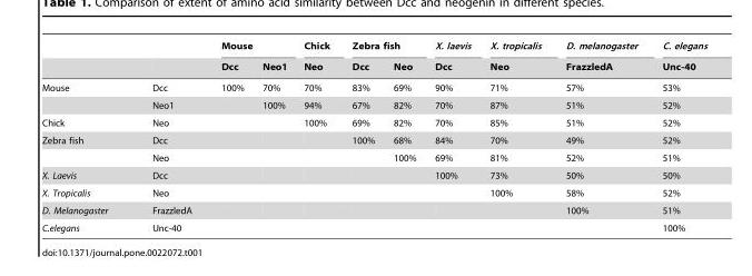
<table><thead><tr><td rowspan="2"></td><td rowspan="2"></td><td colspan="2">Mouse</td><td rowspan="2">Chick Neo</td><td colspan="2">Zebra fish</td><td rowspan="2">X. laevis Dcc</td><td rowspan="2">X. tropicalis Neo</td><td rowspan="2">D. melanogaster FrazzledA</td><td rowspan="2">C. elegans Unc-40</td></tr><tr><td>Dcc</td><td>Neo1</td><td>Dcc</td><td>Neo</td></tr></thead><tbody><tr><td rowspan="2">Mouse</td><td>Dcc</td><td>100%</td><td>70%</td><td>70%</td><td>83%</td><td>69%</td><td>90%</td><td>71%</td><td>57%</td><td>53%</td></tr><tr><td>Neo1</td><td></td><td>100%</td><td>94%</td><td>67%</td><td>82%</td><td>70%</td><td>87%</td><td>51%</td><td>52%</td></tr><tr><td>Chick</td><td>Neo</td><td></td><td></td><td>100%</td><td>69%</td><td>82%</td><td>70%</td><td>85%</td><td>51%</td><td>52%</td></tr><tr><td rowspan="2">Zebra fish</td><td>Dcc</td><td></td><td></td><td></td><td>100%</td><td>68%</td><td>84%</td><td>70%</td><td>49%</td><td>52%</td></tr><tr><td>Neo</td><td></td><td></td><td></td><td></td><td>100%</td><td>69%</td><td>81%</td><td>52%</td><td>51%</td></tr><tr><td>X. Laevis</td><td>Dcc</td><td></td><td></td><td></td><td></td><td></td><td>100%</td><td>73%</td><td>50%</td><td>50%</td></tr><tr><td>X. Tropicalis</td><td>Neo</td><td></td><td></td><td></td><td></td><td></td><td></td><td>100%</td><td>58%</td><td>52%</td></tr><tr><td>D. Melanogaster</td><td>FrazzledA</td><td></td><td></td><td></td><td></td><td></td><td></td><td></td><td>100%</td><td>51%</td></tr><tr><td>C.elegans</td><td>Unc-40</td><td></td><td></td><td></td><td></td><td></td><td></td><td></td><td></td><td>100%</td></tr></tbody></table>